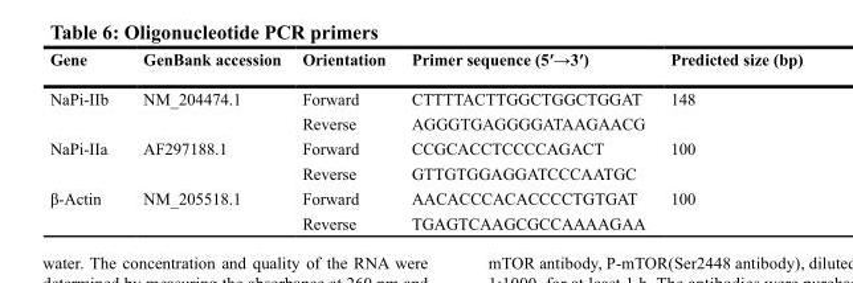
<table><thead><tr><td>Gene</td><td>GenBank accession</td><td>Orientation</td><td>Primer sequence (5ʹ→3ʹ)</td><td>Predicted size (bp)</td></tr></thead><tbody><tr><td rowspan="2">NaPi-IIb</td><td>NM_204474.1</td><td>Forward</td><td>CTTTTACTTGGCTGGCTGGAT</td><td>148</td></tr><tr><td></td><td>Reverse</td><td>AGGGTGAGGGGATAAGAACG</td><td></td></tr><tr><td rowspan="2">NaPi-IIa</td><td>AF297188.1</td><td>Forward</td><td>CCGCACCTCCCCAGACT</td><td>100</td></tr><tr><td></td><td>Reverse</td><td>GTTGTGGAGGATCCCAATGC</td><td></td></tr><tr><td rowspan="2">β-Actin</td><td>NM_205518.1</td><td>Forward</td><td>AACACCCACACCCCTGTGAT</td><td>100</td></tr><tr><td></td><td>Reverse</td><td>TGAGTCAAGCGCCAAAAGAA</td><td></td></tr></tbody></table>